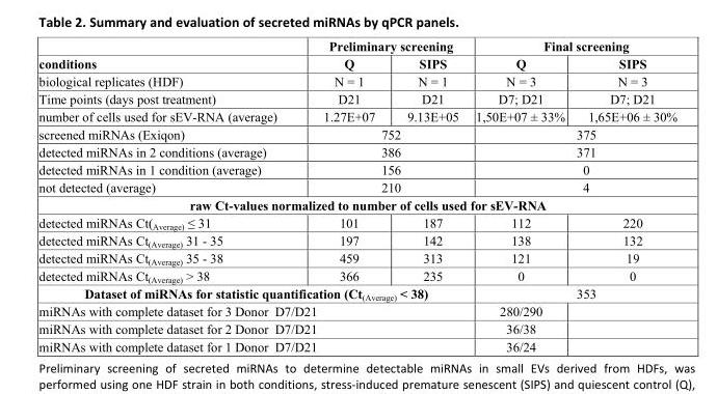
<table><thead><tr><td rowspan="2">conditions</td><td colspan="2">Preliminary screening</td><td colspan="2">Final screening</td></tr><tr><td>Q</td><td>SIPS</td><td>Q</td><td>SIPS</td></tr></thead><tbody><tr><td>biological replicates (HDF)</td><td>N = 1</td><td>N = 1</td><td>N = 3</td><td>N = 3</td></tr><tr><td>Time points (days post treatment)</td><td>D21</td><td>D21</td><td>D7; D21</td><td>D7; D21</td></tr><tr><td>number of cells used for sEV-RNA (average)</td><td>1.27E+07</td><td>9.13E+05</td><td>1,50E+07 ± 33%</td><td>1,65E+06 ± 30%</td></tr><tr><td>screened miRNAs (Exiqon)</td><td colspan="2">752</td><td colspan="2">375</td></tr><tr><td>detected miRNAs in 2 conditions (average)</td><td colspan="2">386</td><td colspan="2">371</td></tr><tr><td>detected miRNAs in 1 condition (average)</td><td colspan="2">156</td><td colspan="2">0</td></tr><tr><td>not detected (average)</td><td colspan="2">210</td><td colspan="2">4</td></tr><tr><td colspan="5">raw Ct-values normalized to number of cells used for sEV-RNA</td></tr><tr><td>detected miRNAs Ct<sub>(Average)</sub> ≤ 31</td><td>101</td><td>187</td><td>112</td><td>220</td></tr><tr><td>detected miRNAs Ct<sub>(Average)</sub> 31 - 35</td><td>197</td><td>142</td><td>138</td><td>132</td></tr><tr><td>detected miRNAs Ct<sub>(Average)</sub> 35 - 38</td><td>459</td><td>313</td><td>121</td><td>19</td></tr><tr><td>detected miRNAs Ct<sub>(Average)</sub> &gt; 38</td><td>366</td><td>235</td><td>0</td><td>0</td></tr><tr><td colspan="3">Dataset of miRNAs for statistic quantification (Ct<sub>(Average)</sub> &lt; 38)</td><td colspan="2">353</td></tr><tr><td colspan="3">miRNAs with complete dataset for 3 Donor D7/D21</td><td>280/290</td><td></td></tr><tr><td colspan="3">miRNAs with complete dataset for 2 Donor D7/D21</td><td>36/38</td><td></td></tr><tr><td colspan="3">miRNAs with complete dataset for 1 Donor D7/D21</td><td>36/24</td><td></td></tr></tbody></table>